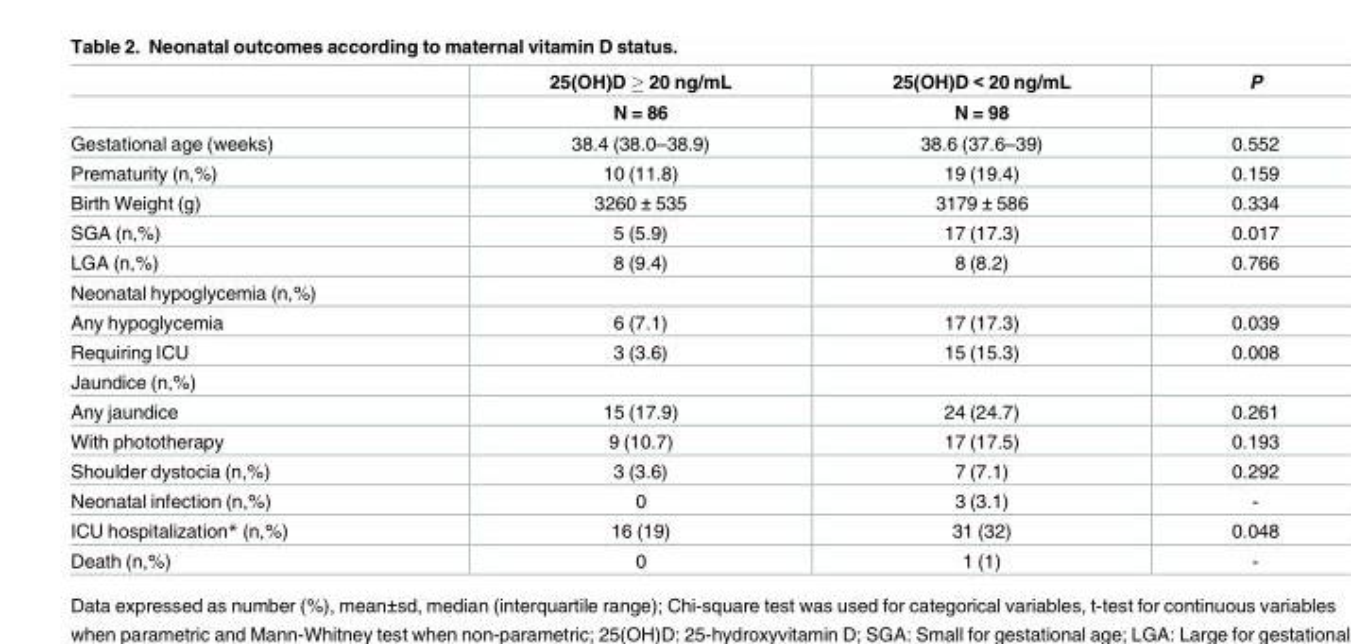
<table><thead><tr><td rowspan="2"></td><td rowspan="2">25(OH)D ≥ 20 ng/mL N = 86</td><td rowspan="2">25(OH)D &lt; 20 ng/mL N = 98</td><td rowspan="2">P</td></tr><tr></tr></thead><tbody><tr><td>Gestational age (weeks)</td><td>38.4 (38.0–38.9)</td><td>38.6 (37.6–39)</td><td>0.552</td></tr><tr><td>Prematurity (n,%)</td><td>10 (11.8)</td><td>19 (19.4)</td><td>0.159</td></tr><tr><td>Birth Weight (g)</td><td>3260 ± 535</td><td>3179 ± 586</td><td>0.334</td></tr><tr><td>SGA (n,%)</td><td>5 (5.9)</td><td>17 (17.3)</td><td>0.017</td></tr><tr><td>LGA (n,%)</td><td>8 (9.4)</td><td>8 (8.2)</td><td>0.766</td></tr><tr><td colspan="4">Neonatal hypoglycemia (n,%)</td></tr><tr><td>Any hypoglycemia</td><td>6 (7.1)</td><td>17 (17.3)</td><td>0.039</td></tr><tr><td>Requiring ICU</td><td>3 (3.6)</td><td>15 (15.3)</td><td>0.008</td></tr><tr><td colspan="4">Jaundice (n,%)</td></tr><tr><td>Any jaundice</td><td>15 (17.9)</td><td>24 (24.7)</td><td>0.261</td></tr><tr><td>With phototherapy</td><td>9 (10.7)</td><td>17 (17.5)</td><td>0.193</td></tr><tr><td>Shoulder dystocia (n,%)</td><td>3 (3.6)</td><td>7 (7.1)</td><td>0.292</td></tr><tr><td>Neonatal infection (n,%)</td><td>0</td><td>3 (3.1)</td><td>-</td></tr><tr><td>ICU hospitalization* (n,%)</td><td>16 (19)</td><td>31 (32)</td><td>0.048</td></tr><tr><td>Death (n,%)</td><td>0</td><td>1 (1)</td><td>-</td></tr></tbody></table>